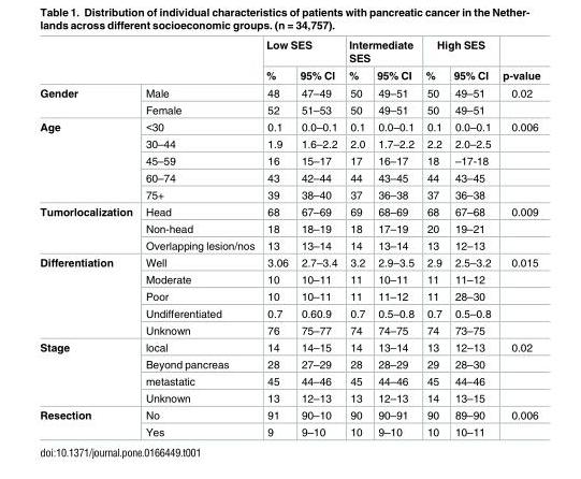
<table><thead><tr><td rowspan="2"></td><td rowspan="2"></td><td colspan="2">Low SES</td><td colspan="2">Intermediate SES</td><td colspan="2">High SES</td><td rowspan="2">p-value</td></tr><tr><td>%</td><td>95% CI</td><td>%</td><td>95% CI</td><td>%</td><td>95% CI</td></tr></thead><tbody><tr><td rowspan="2">Gender</td><td>Male</td><td>48</td><td>47–49</td><td>50</td><td>49–51</td><td>50</td><td>49–51</td><td>0.02</td></tr><tr><td>Female</td><td>52</td><td>51–53</td><td>50</td><td>49–51</td><td>50</td><td>49–51</td><td></td></tr><tr><td rowspan="5">Age</td><td>&lt;30</td><td>0.1</td><td>0.0–0.1</td><td>0.1</td><td>0.0–0.1</td><td>0.1</td><td>0.0–0.1</td><td>0.006</td></tr><tr><td>30–44</td><td>1.9</td><td>1.6–2.2</td><td>2.0</td><td>1.7–2.2</td><td>2.2</td><td>2.0–2.5</td><td></td></tr><tr><td>45–59</td><td>16</td><td>15–17</td><td>17</td><td>16–17</td><td>18</td><td>–17-18</td><td></td></tr><tr><td>60–74</td><td>43</td><td>42–44</td><td>44</td><td>43–45</td><td>44</td><td>43–45</td><td></td></tr><tr><td>75+</td><td>39</td><td>38–40</td><td>37</td><td>36–38</td><td>37</td><td>36–38</td><td></td></tr><tr><td rowspan="3">Tumorlocalization</td><td>Head</td><td>68</td><td>67–69</td><td>69</td><td>68–69</td><td>68</td><td>67–68</td><td>0.009</td></tr><tr><td>Non-head</td><td>18</td><td>18–19</td><td>18</td><td>17–19</td><td>20</td><td>19–21</td><td></td></tr><tr><td>Overlapping lesion/nos</td><td>13</td><td>13–14</td><td>14</td><td>13–14</td><td>13</td><td>12–13</td><td></td></tr><tr><td rowspan="5">Differentiation</td><td>Well</td><td>3.06</td><td>2.7–3.4</td><td>3.2</td><td>2.9–3.5</td><td>2.9</td><td>2.5–3.2</td><td>0.015</td></tr><tr><td>Moderate</td><td>10</td><td>10–11</td><td>11</td><td>10–11</td><td>11</td><td>11–12</td><td></td></tr><tr><td>Poor</td><td>10</td><td>10–11</td><td>11</td><td>11–12</td><td>11</td><td>28–30</td><td></td></tr><tr><td>Undifferentiated</td><td>0.7</td><td>0.60.9</td><td>0.7</td><td>0.5–0.8</td><td>0.7</td><td>0.5–0.8</td><td></td></tr><tr><td>Unknown</td><td>76</td><td>75–77</td><td>74</td><td>74–75</td><td>74</td><td>73–75</td><td></td></tr><tr><td rowspan="4">Stage</td><td>local</td><td>14</td><td>14–15</td><td>14</td><td>13–14</td><td>13</td><td>12–13</td><td>0.02</td></tr><tr><td>Beyond pancreas</td><td>28</td><td>27–29</td><td>28</td><td>28–29</td><td>29</td><td>28–30</td><td></td></tr><tr><td>metastatic</td><td>45</td><td>44–46</td><td>45</td><td>44–46</td><td>45</td><td>44–46</td><td></td></tr><tr><td>Unknown</td><td>13</td><td>12–13</td><td>13</td><td>12–13</td><td>14</td><td>13–15</td><td></td></tr><tr><td rowspan="2">Resection</td><td>No</td><td>91</td><td>90–10</td><td>90</td><td>90–91</td><td>90</td><td>89–90</td><td>0.006</td></tr><tr><td>Yes</td><td>9</td><td>9–10</td><td>10</td><td>9–10</td><td>10</td><td>10–11</td><td></td></tr></tbody></table>